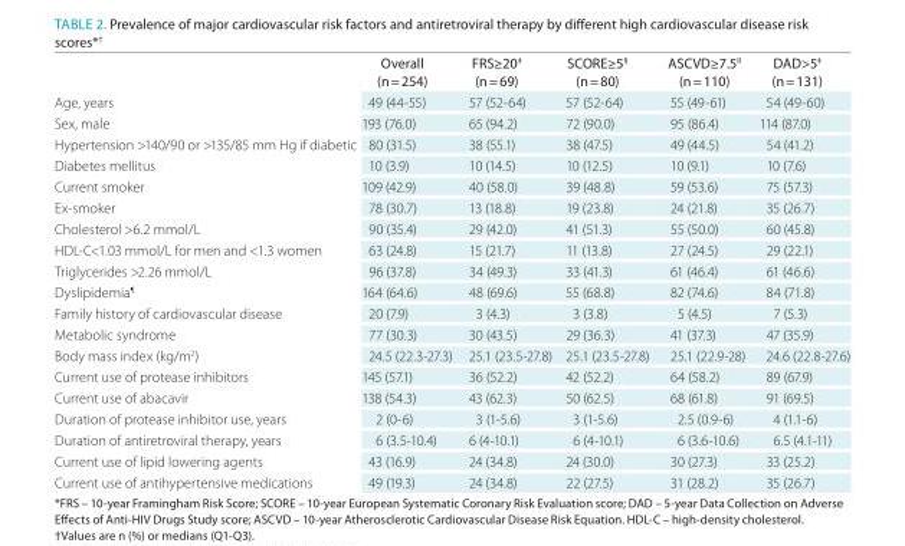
<table><thead><tr><td></td><td>overall (n = 254)</td><td>FRs≥20<sup>‡</sup> (n = 69)</td><td>sCoRe≥5<sup>§</sup> (n = 80)</td><td>asCVD≥7.5II (n = 110)</td><td>DaD&gt;5<sup>‡</sup> (n = 131)</td></tr></thead><tbody><tr><td>Age, years</td><td>49 (44-55)</td><td>57 (52-64)</td><td>57 (52-64)</td><td>55 (49-61)</td><td>54 (49-60)</td></tr><tr><td>Sex, male</td><td>193 (76.0)</td><td>65 (94.2)</td><td>72 (90.0)</td><td>95 (86.4)</td><td>114 (87.0)</td></tr><tr><td>Hypertension &gt;140/90 or &gt;135/85 mm Hg if diabetic</td><td>80 (31.5)</td><td>38 (55.1)</td><td>38 (47.5)</td><td>49 (44.5)</td><td>54 (41.2)</td></tr><tr><td>Diabetes mellitus</td><td>10 (3.9)</td><td>10 (14.5)</td><td>10 (12.5)</td><td>10 (9.1)</td><td>10 (7.6)</td></tr><tr><td>Current smoker</td><td>109 (42.9)</td><td>40 (58.0)</td><td>39 (48.8)</td><td>59 (53.6)</td><td>75 (57.3)</td></tr><tr><td>Ex-smoker</td><td>78 (30.7)</td><td>13 (18.8)</td><td>19 (23.8)</td><td>24 (21.8)</td><td>35 (26.7)</td></tr><tr><td>Cholesterol &gt;6.2 mmol/L</td><td>90 (35.4)</td><td>29 (42.0)</td><td>41 (51.3)</td><td>55 (50.0)</td><td>60 (45.8)</td></tr><tr><td>HDL-C&lt;1.03 mmol/L for men and &lt;1.3 women</td><td>63 (24.8)</td><td>15 (21.7)</td><td>11 (13.8)</td><td>27 (24.5)</td><td>29 (22.1)</td></tr><tr><td>Triglycerides &gt;2.26 mmol/L</td><td>96 (37.8)</td><td>34 (49.3)</td><td>33 (41.3)</td><td>61 (46.4)</td><td>61 (46.6)</td></tr><tr><td>Dyslipidemia<sup>¶</sup></td><td>164 (64.6)</td><td>48 (69.6)</td><td>55 (68.8)</td><td>82 (74.6)</td><td>84 (71.8)</td></tr><tr><td>Family history of cardiovascular disease</td><td>20 (7.9)</td><td>3 (4.3)</td><td>3 (3.8)</td><td>5 (4.5)</td><td>7 (5.3)</td></tr><tr><td>Metabolic syndrome</td><td>77 (30.3)</td><td>30 (43.5)</td><td>29 (36.3)</td><td>41 (37.3)</td><td>47 (35.9)</td></tr><tr><td>Body mass index (kg/m<sup>2</sup>)</td><td>24.5 (22.3-27.3)</td><td>25.1 (23.5-27.8)</td><td>25.1 (23.5-27.8)</td><td>25.1 (22.9-28)</td><td>24.6 (22.8-27.6)</td></tr><tr><td>Current use of protease inhibitors</td><td>145 (57.1)</td><td>36 (52.2)</td><td>42 (52.2)</td><td>64 (58.2)</td><td>89 (67.9)</td></tr><tr><td>Current use of abacavir</td><td>138 (54.3)</td><td>43 (62.3)</td><td>50 (62.5)</td><td>68 (61.8)</td><td>91 (69.5)</td></tr><tr><td>Duration of protease inhibitor use, years</td><td>2 (0-6)</td><td>3 (1-5.6)</td><td>3 (1-5.6)</td><td>2.5 (0.9-6)</td><td>4 (1.1-6)</td></tr><tr><td>Duration of antiretroviral therapy, years</td><td>6 (3.5-10.4)</td><td>6 (4-10.1)</td><td>6 (4-10.1)</td><td>6 (3.6-10.6)</td><td>6.5 (4.1-11)</td></tr><tr><td>Current use of lipid lowering agents</td><td>43 (16.9)</td><td>24 (34.8)</td><td>24 (30.0)</td><td>30 (27.3)</td><td>33 (25.2)</td></tr><tr><td>Current use of antihypertensive medications</td><td>49 (19.3)</td><td>24 (34.8)</td><td>22 (27.5)</td><td>31 (28.2)</td><td>35 (26.7)</td></tr></tbody></table>